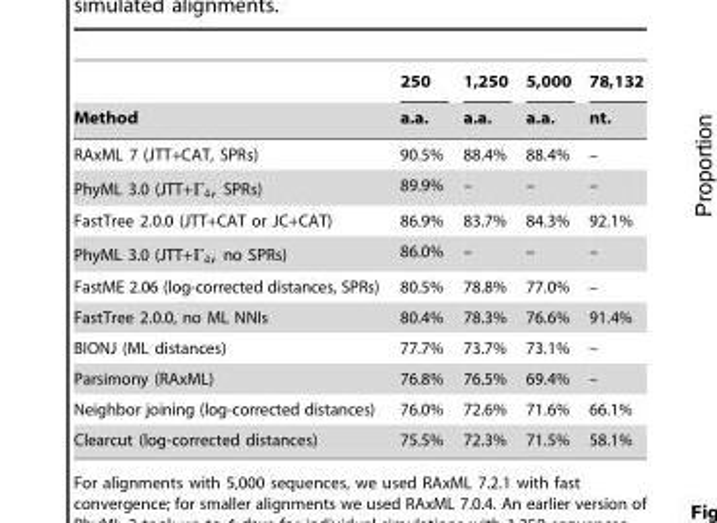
<table><thead><tr><td rowspan="2">Method</td><td rowspan="2">250 a.a.</td><td rowspan="2">1,250 a.a.</td><td rowspan="2">5,000 a.a.</td><td rowspan="2">78,132 nt.</td></tr><tr></tr></thead><tbody><tr><td>RAxML 7 (JTT+CAT, SPRs)</td><td>90.5%</td><td>88.4%</td><td>88.4%</td><td>–</td></tr><tr><td>PhyML 3.0 (JTT+C4, SPRs)</td><td>89.9%</td><td>–</td><td>–</td><td>–</td></tr><tr><td>FastTree 2.0.0 (JTT+CAT or JC+CAT)</td><td>86.9%</td><td>83.7%</td><td>84.3%</td><td>92.1%</td></tr><tr><td>PhyML 3.0 (JTT+C4, no SPRs)</td><td>86.0%</td><td>–</td><td>–</td><td>–</td></tr><tr><td>FastME 2.06 (log-corrected distances, SPRs)</td><td>80.5%</td><td>78.8%</td><td>77.0%</td><td>–</td></tr><tr><td>FastTree 2.0.0, no ML NNIs</td><td>80.4%</td><td>78.3%</td><td>76.6%</td><td>91.4%</td></tr><tr><td>BIONJ (ML distances)</td><td>77.7%</td><td>73.7%</td><td>73.1%</td><td>–</td></tr><tr><td>Parsimony (RAxML)</td><td>76.8%</td><td>76.5%</td><td>69.4%</td><td>–</td></tr><tr><td>Neighbor joining (log-corrected distances)</td><td>76.0%</td><td>72.6%</td><td>71.6%</td><td>66.1%</td></tr><tr><td>Clearcut (log-corrected distances)</td><td>75.5%</td><td>72.3%</td><td>71.5%</td><td>58.1%</td></tr></tbody></table>